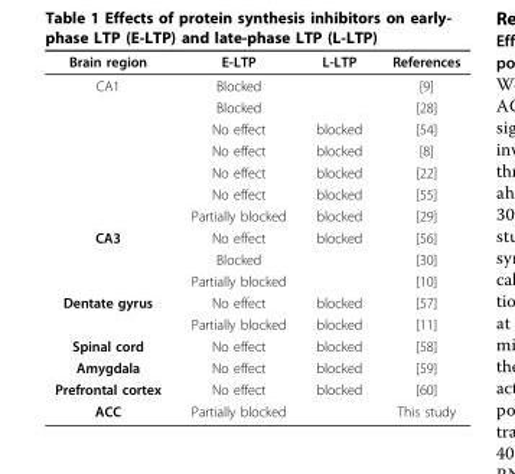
<table><thead><tr><td>Brain region</td><td>E-LTP</td><td>L-LTP</td><td>References</td></tr></thead><tbody><tr><td rowspan="7">CA1</td><td>Blocked</td><td></td><td>[9]</td></tr><tr><td>Blocked</td><td></td><td>[28]</td></tr><tr><td>No effect</td><td>blocked</td><td>[54]</td></tr><tr><td>No effect</td><td>blocked</td><td>[8]</td></tr><tr><td>No effect</td><td>blocked</td><td>[22]</td></tr><tr><td>No effect</td><td>blocked</td><td>[55]</td></tr><tr><td>Partially blocked</td><td>blocked</td><td>[29]</td></tr><tr><td rowspan="3">CA3</td><td>No effect</td><td>blocked</td><td>[56]</td></tr><tr><td>Blocked</td><td></td><td>[30]</td></tr><tr><td>Partially blocked</td><td></td><td>[10]</td></tr><tr><td rowspan="2">Dentate gyrus</td><td>No effect</td><td>blocked</td><td>[57]</td></tr><tr><td>Partially blocked</td><td>blocked</td><td>[11]</td></tr><tr><td>Spinal cord</td><td>No effect</td><td>blocked</td><td>[58]</td></tr><tr><td>Amygdala</td><td>No effect</td><td>blocked</td><td>[59]</td></tr><tr><td>Prefrontal cortex</td><td>No effect</td><td>blocked</td><td>[60]</td></tr><tr><td>ACC</td><td>Partially blocked</td><td></td><td>This study</td></tr></tbody></table>